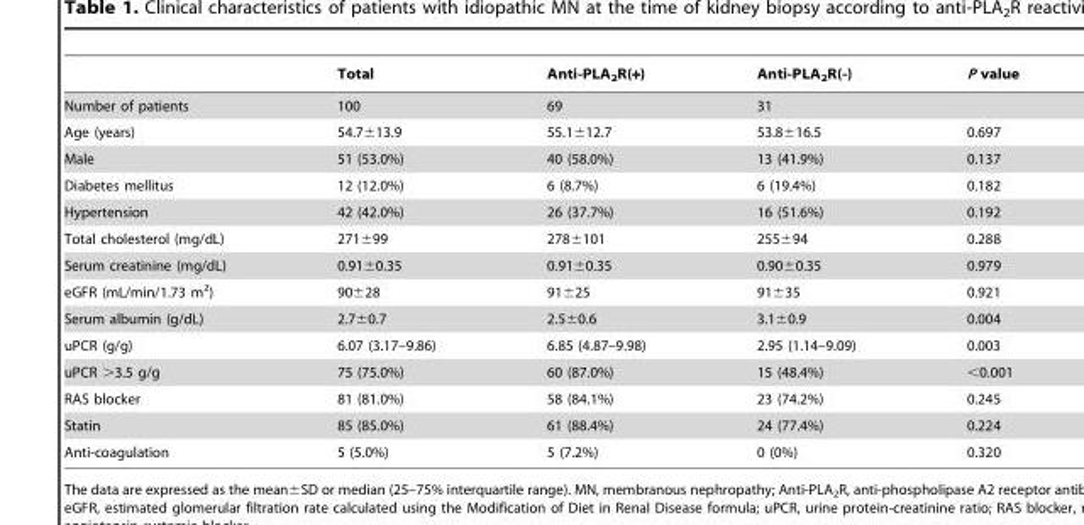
<table><thead><tr><td></td><td>Total</td><td>Anti-PLA<sub>2</sub>R(+)</td><td>Anti-PLA<sub>2</sub>R(-)</td><td>P value</td></tr></thead><tbody><tr><td>Number of patients</td><td>100</td><td>69</td><td>31</td><td></td></tr><tr><td>Age (years)</td><td>54.7±13.9</td><td>55.1±12.7</td><td>53.8±16.5</td><td>0.697</td></tr><tr><td>Male</td><td>51 (53.0%)</td><td>40 (58.0%)</td><td>13 (41.9%)</td><td>0.137</td></tr><tr><td>Diabetes mellitus</td><td>12 (12.0%)</td><td>6 (8.7%)</td><td>6 (19.4%)</td><td>0.182</td></tr><tr><td>Hypertension</td><td>42 (42.0%)</td><td>26 (37.7%)</td><td>16 (51.6%)</td><td>0.192</td></tr><tr><td>Total cholesterol (mg/dL)</td><td>271±99</td><td>278±101</td><td>255±94</td><td>0.288</td></tr><tr><td>Serum creatinine (mg/dL)</td><td>0.91±0.35</td><td>0.91±0.35</td><td>0.90±0.35</td><td>0.979</td></tr><tr><td>eGFR (mL/min/1.73 m<sup>2</sup>)</td><td>90±28</td><td>91±25</td><td>91±35</td><td>0.921</td></tr><tr><td>Serum albumin (g/dL)</td><td>2.7±0.7</td><td>2.5±0.6</td><td>3.1±0.9</td><td>0.004</td></tr><tr><td>uPCR (g/g)</td><td>6.07 (3.17–9.86)</td><td>6.85 (4.87–9.98)</td><td>2.95 (1.14–9.09)</td><td>0.003</td></tr><tr><td>uPCR &gt;3.5 g/g</td><td>75 (75.0%)</td><td>60 (87.0%)</td><td>15 (48.4%)</td><td>&lt;0.001</td></tr><tr><td>RAS blocker</td><td>81 (81.0%)</td><td>58 (84.1%)</td><td>23 (74.2%)</td><td>0.245</td></tr><tr><td>Statin</td><td>85 (85.0%)</td><td>61 (88.4%)</td><td>24 (77.4%)</td><td>0.224</td></tr><tr><td>Anti-coagulation</td><td>5 (5.0%)</td><td>5 (7.2%)</td><td>0 (0%)</td><td>0.320</td></tr></tbody></table>